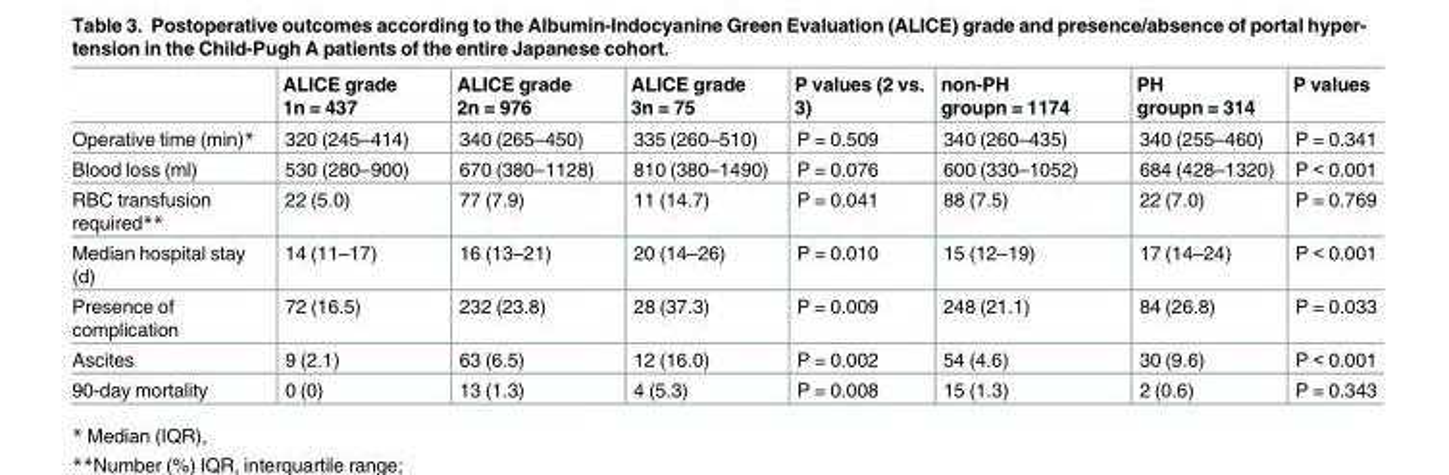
<table><thead><tr><td></td><td>ALICE grade 1n = 437</td><td>ALICE grade 2n = 976</td><td>ALICE grade 3n = 75</td><td>P values (2 vs. 3)</td><td>non-PH groupn = 1174</td><td>PH groupn = 314</td><td>P values</td></tr></thead><tbody><tr><td>Operative time (min)*</td><td>320 (245–414)</td><td>340 (265–450)</td><td>335 (260–510)</td><td>P = 0.509</td><td>340 (260–435)</td><td>340 (255–460)</td><td>P = 0.341</td></tr><tr><td>Blood loss (ml)</td><td>530 (280–900)</td><td>670 (380–1128)</td><td>810 (380–1490)</td><td>P = 0.076</td><td>600 (330–1052)</td><td>684 (428–1320)</td><td>P &lt; 0.001</td></tr><tr><td>RBC transfusion required**</td><td>22 (5.0)</td><td>77 (7.9)</td><td>11 (14.7)</td><td>P = 0.041</td><td>88 (7.5)</td><td>22 (7.0)</td><td>P = 0.769</td></tr><tr><td>Median hospital stay (d)</td><td>14 (11–17)</td><td>16 (13–21)</td><td>20 (14–26)</td><td>P = 0.010</td><td>15 (12–19)</td><td>17 (14–24)</td><td>P &lt; 0.001</td></tr><tr><td>Presence of complication</td><td>72 (16.5)</td><td>232 (23.8)</td><td>28 (37.3)</td><td>P = 0.009</td><td>248 (21.1)</td><td>84 (26.8)</td><td>P = 0.033</td></tr><tr><td>Ascites</td><td>9 (2.1)</td><td>63 (6.5)</td><td>12 (16.0)</td><td>P = 0.002</td><td>54 (4.6)</td><td>30 (9.6)</td><td>P &lt; 0.001</td></tr><tr><td>90-day mortality</td><td>0 (0)</td><td>13 (1.3)</td><td>4 (5.3)</td><td>P = 0.008</td><td>15 (1.3)</td><td>2 (0.6)</td><td>P = 0.343</td></tr></tbody></table>